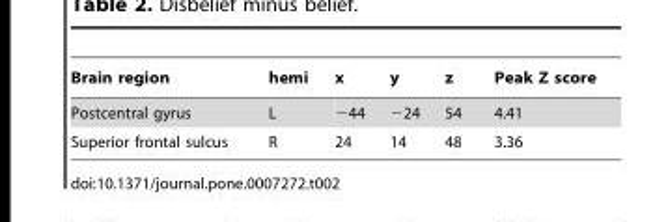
<table><thead><tr><td>Brain region</td><td>hemi</td><td>x</td><td>y</td><td>z</td><td>Peak Z score</td></tr></thead><tbody><tr><td>Postcentral gyrus</td><td>L</td><td>−44</td><td>−24</td><td>54</td><td>4.41</td></tr><tr><td>Superior frontal sulcus</td><td>R</td><td>24</td><td>14</td><td>48</td><td>3.36</td></tr></tbody></table>